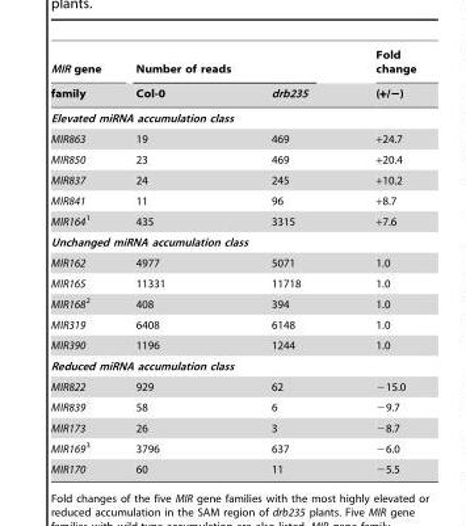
<table><thead><tr><td rowspan="2">MIR gene family</td><td rowspan="2">Number of reads Col-0</td><td rowspan="2">drb235</td><td rowspan="2">Fold change (+/−)</td></tr><tr></tr></thead><tbody><tr><td colspan="4">Elevated miRNA accumulation class</td></tr><tr><td>MIR863</td><td>19</td><td>469</td><td>+24.7</td></tr><tr><td>MIR850</td><td>23</td><td>469</td><td>+20.4</td></tr><tr><td>MIR837</td><td>24</td><td>245</td><td>+10.2</td></tr><tr><td>MIR841</td><td>11</td><td>96</td><td>+8.7</td></tr><tr><td>MIR1641</td><td>435</td><td>3315</td><td>+7.6</td></tr><tr><td colspan="4">Unchanged miRNA accumulation class</td></tr><tr><td>MIR162</td><td>4977</td><td>5071</td><td>1.0</td></tr><tr><td>MIR165</td><td>11331</td><td>11718</td><td>1.0</td></tr><tr><td>MIR1682</td><td>408</td><td>394</td><td>1.0</td></tr><tr><td>MIR319</td><td>6408</td><td>6148</td><td>1.0</td></tr><tr><td>MIR390</td><td>1196</td><td>1244</td><td>1.0</td></tr><tr><td colspan="4">Reduced miRNA accumulation class</td></tr><tr><td>MIR822</td><td>929</td><td>62</td><td>−15.0</td></tr><tr><td>MIR839</td><td>58</td><td>6</td><td>−9.7</td></tr><tr><td>MIR173</td><td>26</td><td>3</td><td>−8.7</td></tr><tr><td>MIR1693</td><td>3796</td><td>637</td><td>−6.0</td></tr><tr><td>MIR170</td><td>60</td><td>11</td><td>−5.5</td></tr></tbody></table>